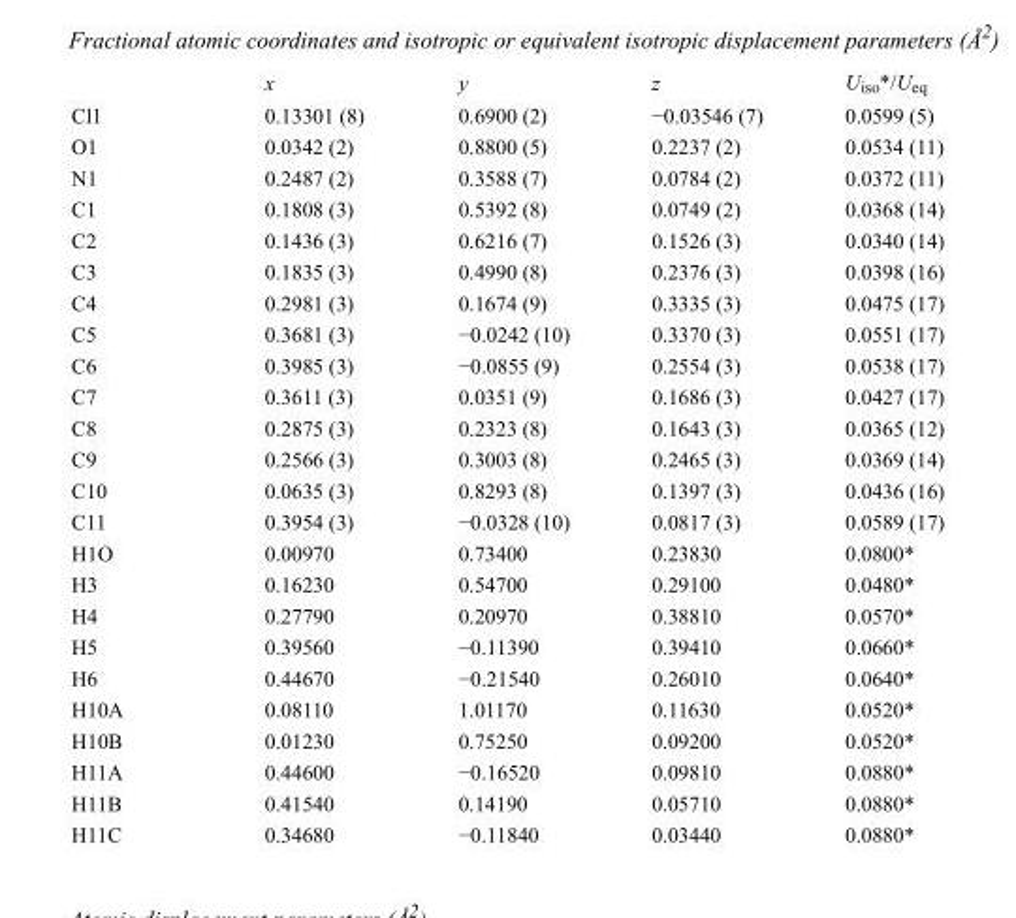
<table><thead><tr><td></td><td>x</td><td>y</td><td>z</td><td>U<sub>iso</sub>*/U<sub>eq</sub></td></tr></thead><tbody><tr><td>Cl1</td><td>0.13301 (8)</td><td>0.6900 (2)</td><td>−0.03546 (7)</td><td>0.0599 (5)</td></tr><tr><td>O1</td><td>0.0342 (2)</td><td>0.8800 (5)</td><td>0.2237 (2)</td><td>0.0534 (11)</td></tr><tr><td>N1</td><td>0.2487 (2)</td><td>0.3588 (7)</td><td>0.0784 (2)</td><td>0.0372 (11)</td></tr><tr><td>C1</td><td>0.1808 (3)</td><td>0.5392 (8)</td><td>0.0749 (2)</td><td>0.0368 (14)</td></tr><tr><td>C2</td><td>0.1436 (3)</td><td>0.6216 (7)</td><td>0.1526 (3)</td><td>0.0340 (14)</td></tr><tr><td>C3</td><td>0.1835 (3)</td><td>0.4990 (8)</td><td>0.2376 (3)</td><td>0.0398 (16)</td></tr><tr><td>C4</td><td>0.2981 (3)</td><td>0.1674 (9)</td><td>0.3335 (3)</td><td>0.0475 (17)</td></tr><tr><td>C5</td><td>0.3681 (3)</td><td>−0.0242 (10)</td><td>0.3370 (3)</td><td>0.0551 (17)</td></tr><tr><td>C6</td><td>0.3985 (3)</td><td>−0.0855 (9)</td><td>0.2554 (3)</td><td>0.0538 (17)</td></tr><tr><td>C7</td><td>0.3611 (3)</td><td>0.0351 (9)</td><td>0.1686 (3)</td><td>0.0427 (17)</td></tr><tr><td>C8</td><td>0.2875 (3)</td><td>0.2323 (8)</td><td>0.1643 (3)</td><td>0.0365 (12)</td></tr><tr><td>C9</td><td>0.2566 (3)</td><td>0.3003 (8)</td><td>0.2465 (3)</td><td>0.0369 (14)</td></tr><tr><td>C10</td><td>0.0635 (3)</td><td>0.8293 (8)</td><td>0.1397 (3)</td><td>0.0436 (16)</td></tr><tr><td>C11</td><td>0.3954 (3)</td><td>−0.0328 (10)</td><td>0.0817 (3)</td><td>0.0589 (17)</td></tr><tr><td>H1O</td><td>0.00970</td><td>0.73400</td><td>0.23830</td><td>0.0800*</td></tr><tr><td>H3</td><td>0.16230</td><td>0.54700</td><td>0.29100</td><td>0.0480*</td></tr><tr><td>H4</td><td>0.27790</td><td>0.20970</td><td>0.38810</td><td>0.0570*</td></tr><tr><td>H5</td><td>0.39560</td><td>−0.11390</td><td>0.39410</td><td>0.0660*</td></tr><tr><td>H6</td><td>0.44670</td><td>−0.21540</td><td>0.26010</td><td>0.0640*</td></tr><tr><td>H10A</td><td>0.08110</td><td>1.01170</td><td>0.11630</td><td>0.0520*</td></tr><tr><td>H10B</td><td>0.01230</td><td>0.75250</td><td>0.09200</td><td>0.0520*</td></tr><tr><td>H11A</td><td>0.44600</td><td>−0.16520</td><td>0.09810</td><td>0.0880*</td></tr><tr><td>H11B</td><td>0.41540</td><td>0.14190</td><td>0.05710</td><td>0.0880*</td></tr><tr><td>H11C</td><td>0.34680</td><td>−0.11840</td><td>0.03440</td><td>0.0880*</td></tr></tbody></table>